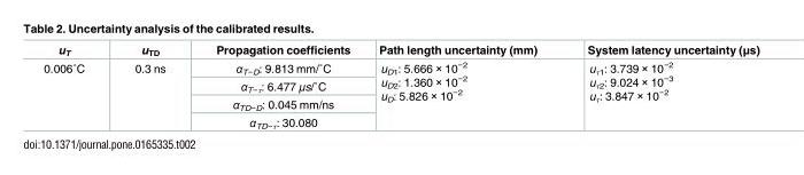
<table><thead><tr><td>u<sub>T</sub></td><td>u<sub>TD</sub></td><td>Propagation coefficients</td><td>Path length uncertainty (mm)</td><td>System latency uncertainty (μs)</td></tr></thead><tbody><tr><td rowspan="4">0.006˚C</td><td rowspan="4">0.3 ns</td><td>αT−D: 9.813 mm/˚C</td><td rowspan="4">u<sub>D1</sub>: 5.666 × 10<sup>−2</sup> u<sub>D2</sub>: 1.360 × 10<sup>−2</sup> u<sub>D</sub>: 5.826 × 10<sup>−2</sup></td><td rowspan="4">u<sub>τ1</sub>: 3.739 × 10<sup>−2</sup> u<sub>τ2</sub>: 9.024 × 10<sup>−3</sup> u<sub>τ</sub>: 3.847 × 10<sup>−2</sup></td></tr><tr><td>αT−τ: 6.477 μs/˚C</td></tr><tr><td>α<sub>TD−D</sub>: 0.045 mm/ns</td></tr><tr><td>α<sub>TD−τ</sub>: 30.080</td></tr></tbody></table>